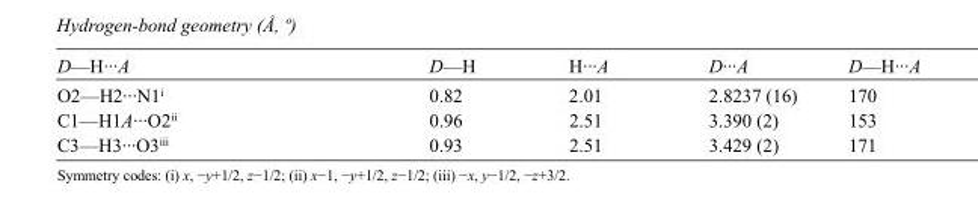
<table><tbody><tr><td>D—H···A</td><td>D—H</td><td>H···A</td><td>D···A</td><td>D—H···A</td></tr><tr><td>O2—H2···N1<sup>i</sup></td><td>0.82</td><td>2.01</td><td>2.8237 (16)</td><td>170</td></tr><tr><td>C1—H1A···O2<sup>ii</sup></td><td>0.96</td><td>2.51</td><td>3.390 (2)</td><td>153</td></tr><tr><td>C3—H3···O3<sup>iii</sup></td><td>0.93</td><td>2.51</td><td>3.429 (2)</td><td>171</td></tr></tbody></table>